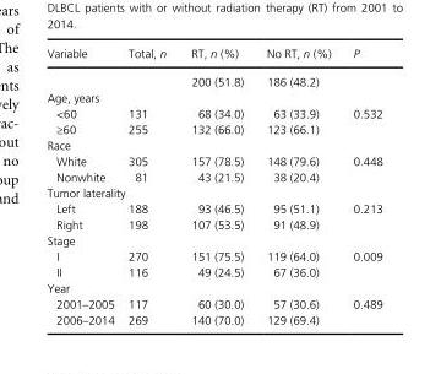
<table><thead><tr><td>Variable</td><td>Total, n</td><td>RT, n (%)</td><td>No RT, n (%)</td><td>P</td></tr></thead><tbody><tr><td></td><td></td><td>200 (51.8)</td><td>186 (48.2)</td><td></td></tr><tr><td colspan="5">Age, years</td></tr><tr><td>&lt;60</td><td>131</td><td>68 (34.0)</td><td>63 (33.9)</td><td>0.532</td></tr><tr><td>≥60</td><td>255</td><td>132 (66.0)</td><td>123 (66.1)</td><td></td></tr><tr><td colspan="5">Race</td></tr><tr><td>White</td><td>305</td><td>157 (78.5)</td><td>148 (79.6)</td><td rowspan="2">0.448</td></tr><tr><td>Nonwhite</td><td>81</td><td>43 (21.5)</td><td>38 (20.4)</td></tr><tr><td colspan="5">Tumor laterality</td></tr><tr><td>Left</td><td>188</td><td>93 (46.5)</td><td>95 (51.1)</td><td rowspan="2">0.213</td></tr><tr><td>Right</td><td>198</td><td>107 (53.5)</td><td>91 (48.9)</td></tr><tr><td colspan="5">Stage</td></tr><tr><td>I</td><td>270</td><td>151 (75.5)</td><td>119 (64.0)</td><td rowspan="2">0.009</td></tr><tr><td>II</td><td>116</td><td>49 (24.5)</td><td>67 (36.0)</td></tr><tr><td colspan="5">Year</td></tr><tr><td>2001–2005</td><td>117</td><td>60 (30.0)</td><td>57 (30.6)</td><td rowspan="2">0.489</td></tr><tr><td>2006–2014</td><td>269</td><td>140 (70.0)</td><td>129 (69.4)</td></tr></tbody></table>